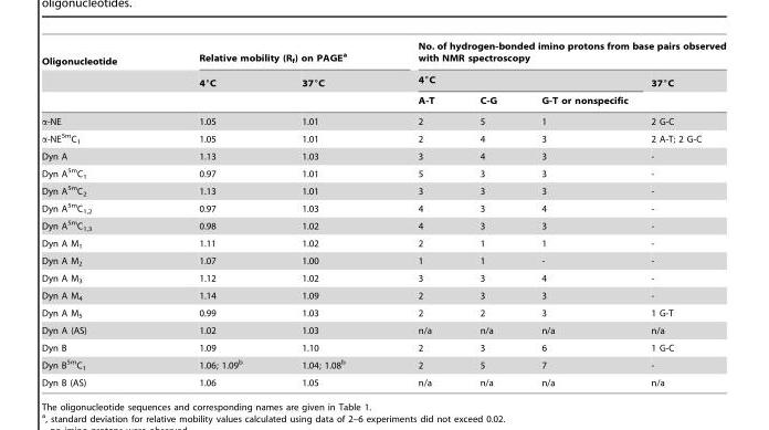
<table><thead><tr><td rowspan="3">Oligonucleotide</td><td colspan="2">Relative mobility (R<sub>f</sub>) on PAGE<sup>a</sup></td><td colspan="4">No. of hydrogen-bonded imino protons from base pairs observed with NMR spectroscopy</td></tr><tr><td rowspan="2">4°C</td><td rowspan="2">37°C</td><td colspan="3">4°C</td><td rowspan="2">37°C</td></tr><tr><td>A-T</td><td>C-G</td><td>G-T or nonspecific</td></tr></thead><tbody><tr><td>α-NE</td><td>1.05</td><td>1.01</td><td>2</td><td>5</td><td>1</td><td>2 G-C</td></tr><tr><td>α-NE<sup>5m</sup>C<sub>1</sub></td><td>1.05</td><td>1.01</td><td>2</td><td>4</td><td>3</td><td>2 A-T; 2 G-C</td></tr><tr><td>Dyn A</td><td>1.13</td><td>1.03</td><td>3</td><td>4</td><td>3</td><td>-</td></tr><tr><td>Dyn A<sup>5m</sup>C<sub>1</sub></td><td>0.97</td><td>1.01</td><td>5</td><td>3</td><td>3</td><td>-</td></tr><tr><td>Dyn A<sup>5m</sup>C<sub>2</sub></td><td>1.13</td><td>1.01</td><td>3</td><td>3</td><td>3</td><td>-</td></tr><tr><td>Dyn A<sup>5m</sup>C<sub>1,2</sub></td><td>0.97</td><td>1.03</td><td>4</td><td>3</td><td>4</td><td>-</td></tr><tr><td>Dyn A<sup>5m</sup>C<sub>1,3</sub></td><td>0.98</td><td>1.02</td><td>4</td><td>3</td><td>3</td><td>-</td></tr><tr><td>Dyn A M<sub>1</sub></td><td>1.11</td><td>1.02</td><td>2</td><td>1</td><td>1</td><td>-</td></tr><tr><td>Dyn A M<sub>2</sub></td><td>1.07</td><td>1.00</td><td>1</td><td>1</td><td>-</td><td>-</td></tr><tr><td>Dyn A M<sub>3</sub></td><td>1.12</td><td>1.02</td><td>3</td><td>3</td><td>4</td><td>-</td></tr><tr><td>Dyn A M<sub>4</sub></td><td>1.14</td><td>1.09</td><td>2</td><td>3</td><td>3</td><td>-</td></tr><tr><td>Dyn A M<sub>5</sub></td><td>0.99</td><td>1.03</td><td>2</td><td>2</td><td>3</td><td>1 G-T</td></tr><tr><td>Dyn A (AS)</td><td>1.02</td><td>1.03</td><td>n/a</td><td>n/a</td><td>n/a</td><td>n/a</td></tr><tr><td>Dyn B</td><td>1.09</td><td>1.10</td><td>2</td><td>3</td><td>6</td><td>1 G-C</td></tr><tr><td>Dyn B<sup>5m</sup>C<sub>1</sub></td><td>1.06; 1.09<sup>b</sup></td><td>1.04; 1.08<sup>b</sup></td><td>2</td><td>5</td><td>7</td><td>-</td></tr><tr><td>Dyn B (AS)</td><td>1.06</td><td>1.05</td><td>n/a</td><td>n/a</td><td>n/a</td><td>n/a</td></tr></tbody></table>